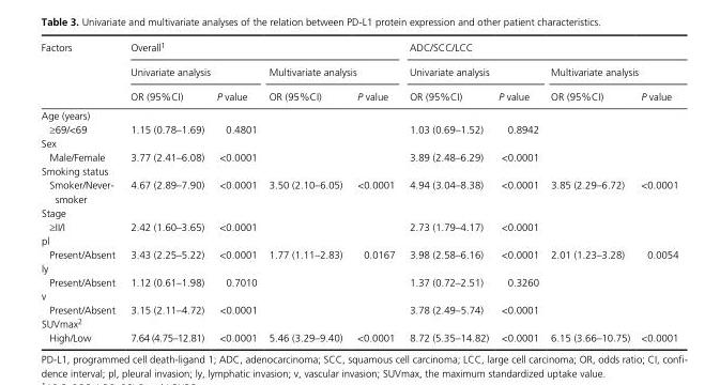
<table><thead><tr><td rowspan="3">Factors</td><td colspan="4">Overall1</td><td colspan="4">ADC/SCC/LCC</td></tr><tr><td colspan="2">Univariate analysis</td><td colspan="2">Multivariate analysis</td><td colspan="2">Univariate analysis</td><td colspan="2">Multivariate analysis</td></tr><tr><td>OR (95%CI)</td><td>P value</td><td>OR (95%CI)</td><td>P value</td><td>OR (95%CI)</td><td>P value</td><td>OR (95%CI)</td><td>P value</td></tr></thead><tbody><tr><td colspan="9">Age (years)</td></tr><tr><td>≥69/&lt;69</td><td>1.15 (0.78–1.69)</td><td>0.4801</td><td></td><td></td><td>1.03 (0.69–1.52)</td><td>0.8942</td><td></td><td></td></tr><tr><td colspan="9">Sex</td></tr><tr><td>Male/Female</td><td>3.77 (2.41–6.08)</td><td>&lt;0.0001</td><td></td><td></td><td>3.89 (2.48–6.29)</td><td>&lt;0.0001</td><td></td><td></td></tr><tr><td colspan="9">Smoking status</td></tr><tr><td>Smoker/Never- smoker</td><td>4.67 (2.89–7.90)</td><td>&lt;0.0001</td><td>3.50 (2.10–6.05)</td><td>&lt;0.0001</td><td>4.94 (3.04–8.38)</td><td>&lt;0.0001</td><td>3.85 (2.29–6.72)</td><td>&lt;0.0001</td></tr><tr><td colspan="9">Stage</td></tr><tr><td>≥II/I</td><td>2.42 (1.60–3.65)</td><td>&lt;0.0001</td><td></td><td></td><td>2.73 (1.79–4.17)</td><td>&lt;0.0001</td><td></td><td></td></tr><tr><td colspan="9">pl</td></tr><tr><td>Present/Absent</td><td>3.43 (2.25–5.22)</td><td>&lt;0.0001</td><td>1.77 (1.11–2.83)</td><td>0.0167</td><td>3.98 (2.58–6.16)</td><td>&lt;0.0001</td><td>2.01 (1.23–3.28)</td><td>0.0054</td></tr><tr><td colspan="9">ly</td></tr><tr><td>Present/Absent</td><td>1.12 (0.61–1.98)</td><td>0.7010</td><td></td><td></td><td>1.37 (0.72–2.51)</td><td>0.3260</td><td></td><td></td></tr><tr><td colspan="9">v</td></tr><tr><td>Present/Absent</td><td>3.15 (2.11–4.72)</td><td>&lt;0.0001</td><td></td><td></td><td>3.78 (2.49–5.74)</td><td>&lt;0.0001</td><td></td><td></td></tr><tr><td colspan="9">SUVmax2</td></tr><tr><td>High/Low</td><td>7.64 (4.75–12.81)</td><td>&lt;0.0001</td><td>5.46 (3.29–9.40)</td><td>&lt;0.0001</td><td>8.72 (5.35–14.82)</td><td>&lt;0.0001</td><td>6.15 (3.66–10.75)</td><td>&lt;0.0001</td></tr></tbody></table>